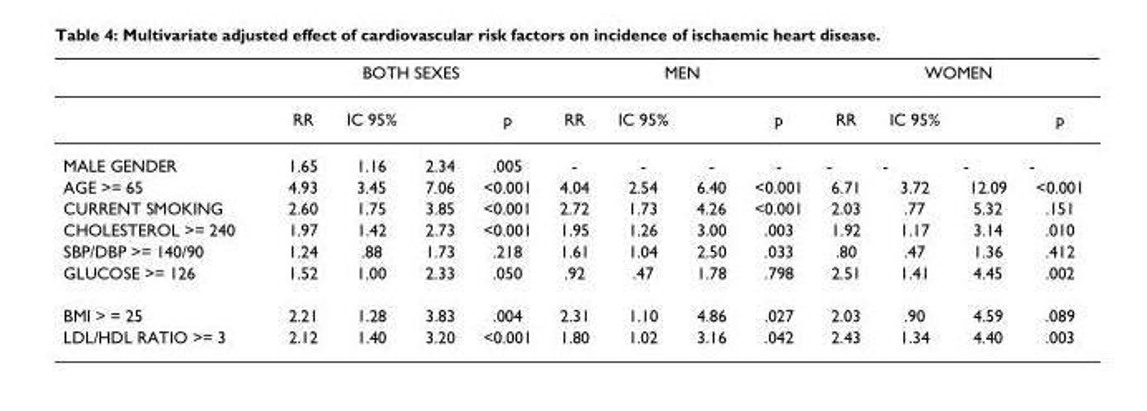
<table><thead><tr><td rowspan="2"></td><td colspan="4">BOTH SEXES</td><td colspan="4">MEN</td><td colspan="4">WOMEN</td></tr><tr><td>RR</td><td>IC 95%</td><td></td><td>p</td><td>RR</td><td>IC 95%</td><td></td><td>p</td><td>RR</td><td>IC 95%</td><td></td><td>p</td></tr></thead><tbody><tr><td>MALE GENDER</td><td>1.65</td><td>1.16</td><td>2.34</td><td>.005</td><td>-</td><td>-</td><td>-</td><td>-</td><td>-</td><td>-</td><td>-</td><td>-</td></tr><tr><td>AGE &gt;= 65</td><td>4.93</td><td>3.45</td><td>7.06</td><td>&lt;0.001</td><td>4.04</td><td>2.54</td><td>6.40</td><td>&lt;0.001</td><td>6.71</td><td>3.72</td><td>12.09</td><td>&lt;0.001</td></tr><tr><td>CURRENT SMOKING</td><td>2.60</td><td>1.75</td><td>3.85</td><td>&lt;0.001</td><td>2.72</td><td>1.73</td><td>4.26</td><td>&lt;0.001</td><td>2.03</td><td>.77</td><td>5.32</td><td>.151</td></tr><tr><td>CHOLESTEROL &gt;= 240</td><td>1.97</td><td>1.42</td><td>2.73</td><td>&lt;0.001</td><td>1.95</td><td>1.26</td><td>3.00</td><td>.003</td><td>1.92</td><td>1.17</td><td>3.14</td><td>.010</td></tr><tr><td>SBP/DBP &gt;= 140/90</td><td>1.24</td><td>.88</td><td>1.73</td><td>.218</td><td>1.61</td><td>1.04</td><td>2.50</td><td>.033</td><td>.80</td><td>.47</td><td>1.36</td><td>.412</td></tr><tr><td>GLUCOSE &gt;= 126</td><td>1.52</td><td>1.00</td><td>2.33</td><td>.050</td><td>.92</td><td>.47</td><td>1.78</td><td>.798</td><td>2.51</td><td>1.41</td><td>4.45</td><td>.002</td></tr><tr><td>BMI &gt; = 25</td><td>2.21</td><td>1.28</td><td>3.83</td><td>.004</td><td>2.31</td><td>1.10</td><td>4.86</td><td>.027</td><td>2.03</td><td>.90</td><td>4.59</td><td>.089</td></tr><tr><td>LDL/HDL RATIO &gt;= 3</td><td>2.12</td><td>1.40</td><td>3.20</td><td>&lt;0.001</td><td>1.80</td><td>1.02</td><td>3.16</td><td>.042</td><td>2.43</td><td>1.34</td><td>4.40</td><td>.003</td></tr></tbody></table>